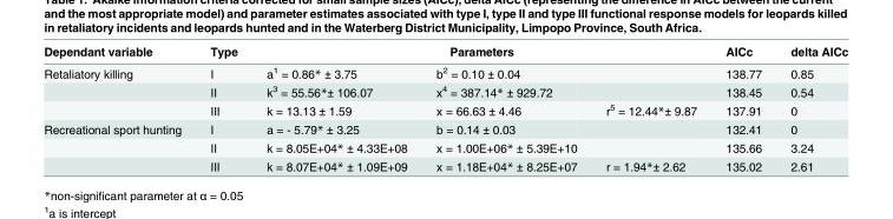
<table><thead><tr><td rowspan="2">Dependant variable Retaliatory killing</td><td rowspan="2">Type I</td><td colspan="3">Parameters</td><td rowspan="2">AICc 138.77</td><td rowspan="2">delta AICc 0.85</td></tr><tr><td>a<sup>1</sup> = 0.86* ± 3.75</td><td>b<sup>2</sup> = 0.10 ± 0.04</td><td></td></tr></thead><tbody><tr><td></td><td>II</td><td>k<sup>3</sup> = 55.56*± 106.07</td><td>x<sup>4</sup> = 387.14* ± 929.72</td><td></td><td>138.45</td><td>0.54</td></tr><tr><td></td><td>III</td><td>k = 13.13 ± 1.59</td><td>x = 66.63 ± 4.46</td><td>r<sup>5</sup> = 12.44*± 9.87</td><td>137.91</td><td>0</td></tr><tr><td rowspan="3">Recreational sport hunting</td><td>I</td><td>a = - 5.79* ± 3.25</td><td>b = 0.14 ± 0.03</td><td></td><td>132.41</td><td>0</td></tr><tr><td>II</td><td>k = 8.05E+04* ± 4.33E+08</td><td>x = 1.00E+06* ± 5.39E+10</td><td></td><td>135.66</td><td>3.24</td></tr><tr><td>III</td><td>k = 8.07E+04* ± 1.09E+09</td><td>x = 1.18E+04* ± 8.25E+07</td><td>r = 1.94*± 2.62</td><td>135.02</td><td>2.61</td></tr></tbody></table>